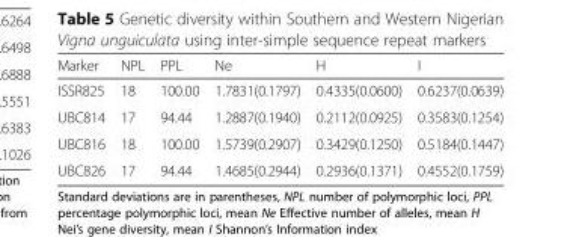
<table><thead><tr><td>Marker</td><td>NPL</td><td>PPL</td><td>Ne</td><td>H</td><td>I</td></tr></thead><tbody><tr><td>ISSR825</td><td>18</td><td>100.00</td><td>1.7831(0.1797)</td><td>0.4335(0.0600)</td><td>0.6237(0.0639)</td></tr><tr><td>UBC814</td><td>17</td><td>94.44</td><td>1.2887(0.1940)</td><td>0.2112(0.0925)</td><td>0.3583(0.1254)</td></tr><tr><td>UBC816</td><td>18</td><td>100.00</td><td>1.5739(0.2907)</td><td>0.3429(0.1250)</td><td>0.5184(0.1447)</td></tr><tr><td>UBC826</td><td>17</td><td>94.44</td><td>1.4685(0.2944)</td><td>0.2936(0.1371)</td><td>0.4552(0.1759)</td></tr></tbody></table>